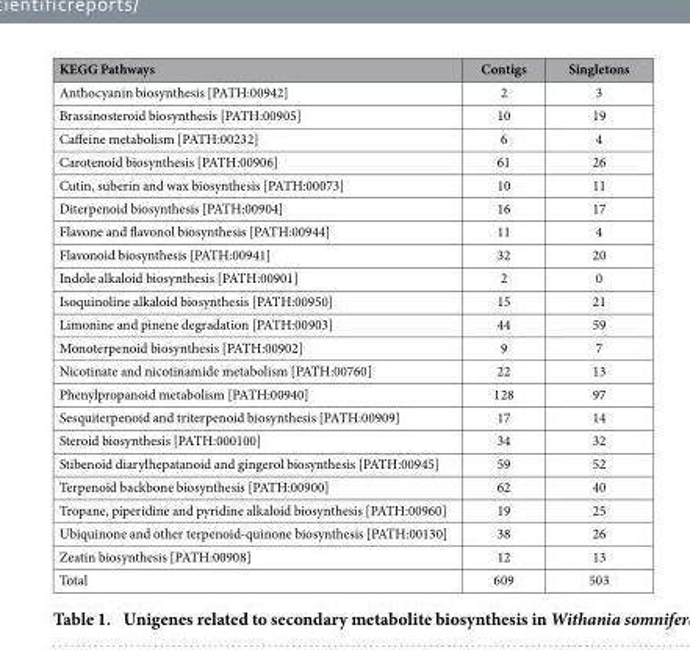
<table><thead><tr><td>KEGG Pathways</td><td>Contigs</td><td>Singletons</td></tr></thead><tbody><tr><td>Anthocyanin biosynthesis [PATH:00942]</td><td>2</td><td>3</td></tr><tr><td>Brassinosteroid biosynthesis [PATH:00905]</td><td>10</td><td>19</td></tr><tr><td>Caffeine metabolism [PATH:00232]</td><td>6</td><td>4</td></tr><tr><td>Carotenoid biosynthesis [PATH:00906]</td><td>61</td><td>26</td></tr><tr><td>Cutin, suberin and wax biosynthesis [PATH:00073]</td><td>10</td><td>11</td></tr><tr><td>Diterpenoid biosynthesis [PATH:00904]</td><td>16</td><td>17</td></tr><tr><td>Flavone and flavonol biosynthesis [PATH:00944]</td><td>11</td><td>4</td></tr><tr><td>Flavonoid biosynthesis [PATH:00941]</td><td>32</td><td>20</td></tr><tr><td>Indole alkaloid biosynthesis [PATH:00901]</td><td>2</td><td>0</td></tr><tr><td>Isoquinoline alkaloid biosynthesis [PATH:00950]</td><td>15</td><td>21</td></tr><tr><td>Limonine and pinene degradation [PATH:00903]</td><td>44</td><td>59</td></tr><tr><td>Monoterpenoid biosynthesis [PATH:00902]</td><td>9</td><td>7</td></tr><tr><td>Nicotinate and nicotinamide metabolism [PATH:00760]</td><td>22</td><td>13</td></tr><tr><td>Phenylpropanoid metabolism [PATH:00940]</td><td>128</td><td>97</td></tr><tr><td>Sesquiterpenoid and triterpenoid biosynthesis [PATH:00909]</td><td>17</td><td>14</td></tr><tr><td>Steroid biosynthesis [PATH:000100]</td><td>34</td><td>32</td></tr><tr><td>Stibenoid diarylhepatanoid and gingerol biosynthesis [PATH:00945]</td><td>59</td><td>52</td></tr><tr><td>Terpenoid backbone biosynthesis [PATH:00900]</td><td>62</td><td>40</td></tr><tr><td>Tropane, piperidine and pyridine alkaloid biosynthesis [PATH:00960]</td><td>19</td><td>25</td></tr><tr><td>Ubiquinone and other terpenoid-quinone biosynthesis [PATH:00130]</td><td>38</td><td>26</td></tr><tr><td>Zeatin biosynthesis [PATH:00908]</td><td>12</td><td>13</td></tr><tr><td>Total</td><td>609</td><td>503</td></tr></tbody></table>